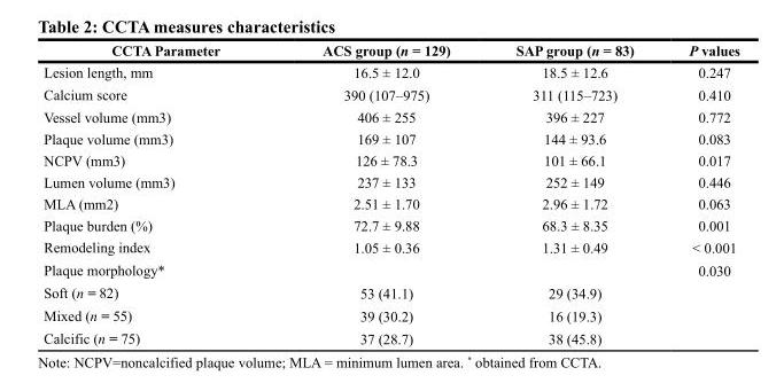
<table><thead><tr><td>CCTA Parameter</td><td>ACS group (n = 129)</td><td>SAP group (n = 83)</td><td>P values</td></tr></thead><tbody><tr><td>Lesion length, mm</td><td>16.5 ± 12.0</td><td>18.5 ± 12.6</td><td>0.247</td></tr><tr><td>Calcium score</td><td>390 (107–975)</td><td>311 (115–723)</td><td>0.410</td></tr><tr><td>Vessel volume (mm3)</td><td>406 ± 255</td><td>396 ± 227</td><td>0.772</td></tr><tr><td>Plaque volume (mm3)</td><td>169 ± 107</td><td>144 ± 93.6</td><td>0.083</td></tr><tr><td>NCPV (mm3)</td><td>126 ± 78.3</td><td>101 ± 66.1</td><td>0.017</td></tr><tr><td>Lumen volume (mm3)</td><td>237 ± 133</td><td>252 ± 149</td><td>0.446</td></tr><tr><td>MLA (mm2)</td><td>2.51 ± 1.70</td><td>2.96 ± 1.72</td><td>0.063</td></tr><tr><td>Plaque burden (%)</td><td>72.7 ± 9.88</td><td>68.3 ± 8.35</td><td>0.001</td></tr><tr><td>Remodeling index</td><td>1.05 ± 0.36</td><td>1.31 ± 0.49</td><td>&lt; 0.001</td></tr><tr><td>Plaque morphology*</td><td></td><td></td><td>0.030</td></tr><tr><td>Soft (n = 82)</td><td>53 (41.1)</td><td>29 (34.9)</td><td></td></tr><tr><td>Mixed (n = 55)</td><td>39 (30.2)</td><td>16 (19.3)</td><td></td></tr><tr><td>Calcific (n = 75)</td><td>37 (28.7)</td><td>38 (45.8)</td><td></td></tr></tbody></table>